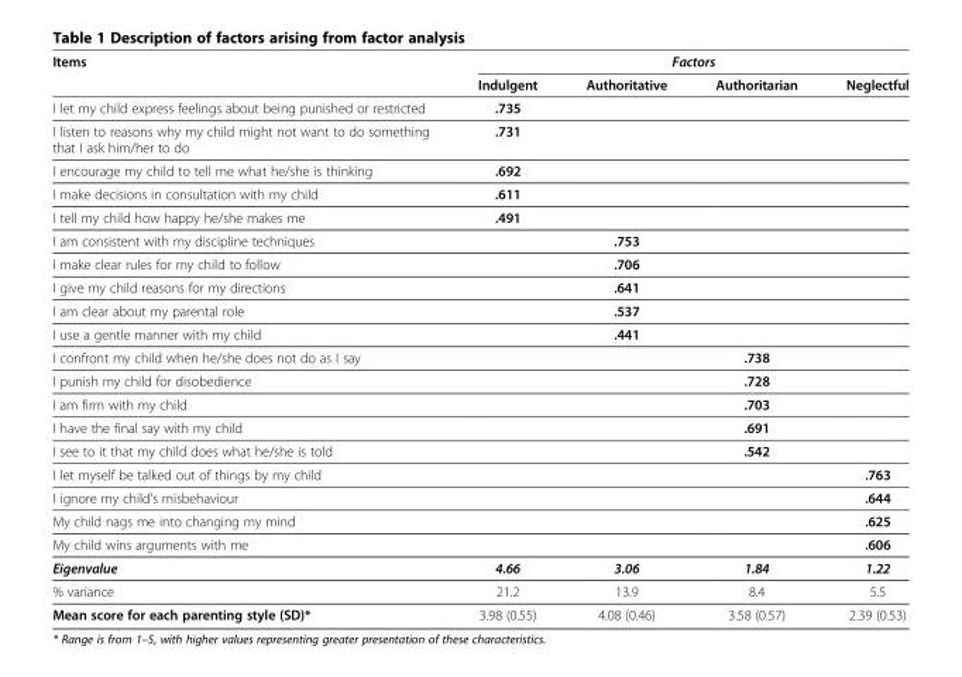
<table><thead><tr><td rowspan="2">Items</td><td colspan="4">Factors</td></tr><tr><td>Indulgent</td><td>Authoritative</td><td>Authoritarian</td><td>Neglectful</td></tr></thead><tbody><tr><td>I let my child express feelings about being punished or restricted</td><td>.735</td><td></td><td></td><td></td></tr><tr><td>I listen to reasons why my child might not want to do something that I ask him/her to do</td><td>.731</td><td></td><td></td><td></td></tr><tr><td>I encourage my child to tell me what he/she is thinking</td><td>.692</td><td></td><td></td><td></td></tr><tr><td>I make decisions in consultation with my child</td><td>.611</td><td></td><td></td><td></td></tr><tr><td>I tell my child how happy he/she makes me</td><td>.491</td><td></td><td></td><td></td></tr><tr><td>I am consistent with my discipline techniques</td><td></td><td>.753</td><td></td><td></td></tr><tr><td>I make clear rules for my child to follow</td><td></td><td>.706</td><td></td><td></td></tr><tr><td>I give my child reasons for my directions</td><td></td><td>.641</td><td></td><td></td></tr><tr><td>I am clear about my parental role</td><td></td><td>.537</td><td></td><td></td></tr><tr><td>I use a gentle manner with my child</td><td></td><td>.441</td><td></td><td></td></tr><tr><td>I confront my child when he/she does not do as I say</td><td></td><td></td><td>.738</td><td></td></tr><tr><td>I punish my child for disobedience</td><td></td><td></td><td>.728</td><td></td></tr><tr><td>I am firm with my child</td><td></td><td></td><td>.703</td><td></td></tr><tr><td>I have the final say with my child</td><td></td><td></td><td>.691</td><td></td></tr><tr><td>I see to it that my child does what he/she is told</td><td></td><td></td><td>.542</td><td></td></tr><tr><td>I let myself be talked out of things by my child</td><td></td><td></td><td></td><td>.763</td></tr><tr><td>I ignore my child’s misbehaviour</td><td></td><td></td><td></td><td>.644</td></tr><tr><td>My child nags me into changing my mind</td><td></td><td></td><td></td><td>.625</td></tr><tr><td>My child wins arguments with me</td><td></td><td></td><td></td><td>.606</td></tr><tr><td>Eigenvalue</td><td>4.66</td><td>3.06</td><td>1.84</td><td>1.22</td></tr><tr><td>% variance</td><td>21.2</td><td>13.9</td><td>8.4</td><td>5.5</td></tr><tr><td>Mean score for each parenting style (SD)*</td><td>3.98 (0.55)</td><td>4.08 (0.46)</td><td>3.58 (0.57)</td><td>2.39 (0.53)</td></tr></tbody></table>